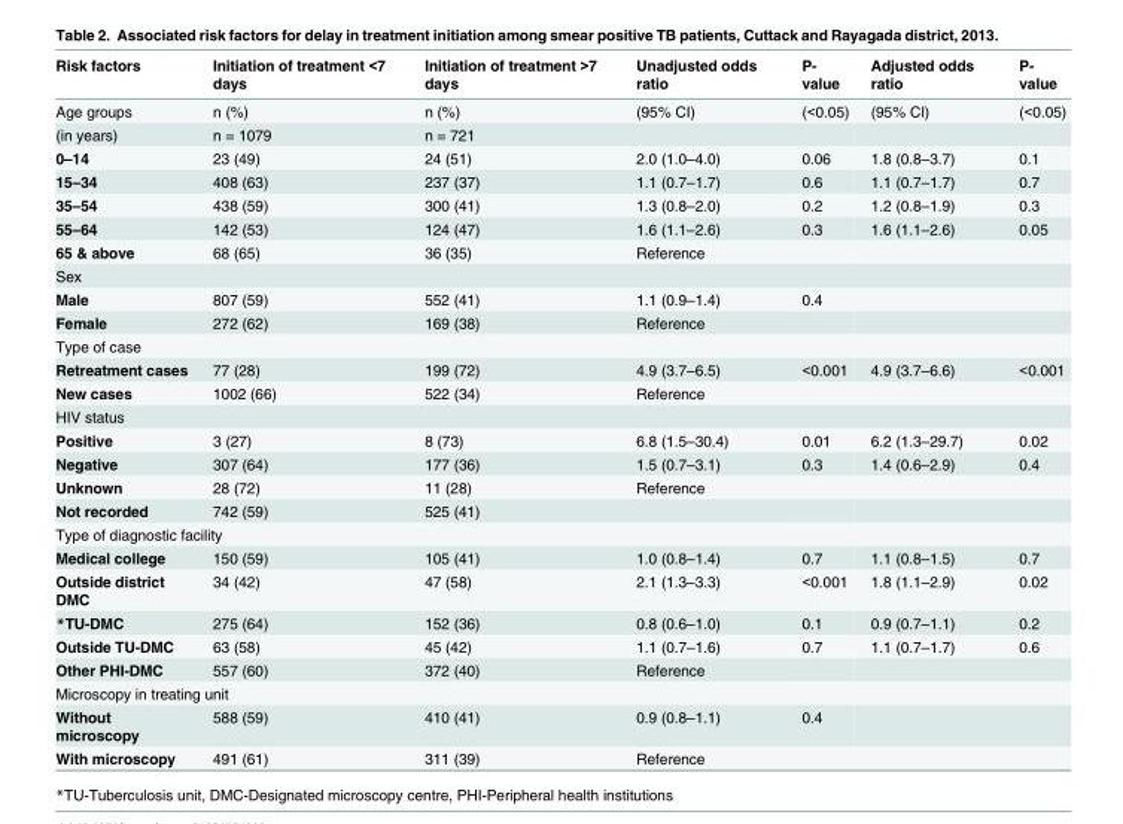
<table><thead><tr><td>Risk factors</td><td>Initiation of treatment &lt;7 days</td><td>Initiation of treatment &gt;7 days</td><td>Unadjusted odds ratio</td><td>P- value</td><td>Adjusted odds ratio</td><td>P- value</td></tr></thead><tbody><tr><td>Age groups</td><td>n (%)</td><td>n (%)</td><td>(95% CI)</td><td>(&lt;0.05)</td><td>(95% CI)</td><td>(&lt;0.05)</td></tr><tr><td>(in years)</td><td>n = 1079</td><td>n = 721</td><td></td><td></td><td></td><td></td></tr><tr><td>0–14</td><td>23 (49)</td><td>24 (51)</td><td>2.0 (1.0–4.0)</td><td>0.06</td><td>1.8 (0.8–3.7)</td><td>0.1</td></tr><tr><td>15–34</td><td>408 (63)</td><td>237 (37)</td><td>1.1 (0.7–1.7)</td><td>0.6</td><td>1.1 (0.7–1.7)</td><td>0.7</td></tr><tr><td>35–54</td><td>438 (59)</td><td>300 (41)</td><td>1.3 (0.8–2.0)</td><td>0.2</td><td>1.2 (0.8–1.9)</td><td>0.3</td></tr><tr><td>55–64</td><td>142 (53)</td><td>124 (47)</td><td>1.6 (1.1–2.6)</td><td>0.3</td><td>1.6 (1.1–2.6)</td><td>0.05</td></tr><tr><td>65 &amp; above</td><td>68 (65)</td><td>36 (35)</td><td>Reference</td><td></td><td></td><td></td></tr><tr><td colspan="7">Sex</td></tr><tr><td>Male</td><td>807 (59)</td><td>552 (41)</td><td>1.1 (0.9–1.4)</td><td>0.4</td><td></td><td></td></tr><tr><td>Female</td><td>272 (62)</td><td>169 (38)</td><td>Reference</td><td></td><td></td><td></td></tr><tr><td colspan="7">Type of case</td></tr><tr><td>Retreatment cases</td><td>77 (28)</td><td>199 (72)</td><td>4.9 (3.7–6.5)</td><td>&lt;0.001</td><td>4.9 (3.7–6.6)</td><td>&lt;0.001</td></tr><tr><td>New cases</td><td>1002 (66)</td><td>522 (34)</td><td>Reference</td><td></td><td></td><td></td></tr><tr><td colspan="7">HIV status</td></tr><tr><td>Positive</td><td>3 (27)</td><td>8 (73)</td><td>6.8 (1.5–30.4)</td><td>0.01</td><td>6.2 (1.3–29.7)</td><td>0.02</td></tr><tr><td>Negative</td><td>307 (64)</td><td>177 (36)</td><td>1.5 (0.7–3.1)</td><td>0.3</td><td>1.4 (0.6–2.9)</td><td>0.4</td></tr><tr><td>Unknown</td><td>28 (72)</td><td>11 (28)</td><td>Reference</td><td></td><td></td><td></td></tr><tr><td>Not recorded</td><td>742 (59)</td><td>525 (41)</td><td></td><td></td><td></td><td></td></tr><tr><td colspan="7">Type of diagnostic facility</td></tr><tr><td>Medical college</td><td>150 (59)</td><td>105 (41)</td><td>1.0 (0.8–1.4)</td><td>0.7</td><td>1.1 (0.8–1.5)</td><td>0.7</td></tr><tr><td>Outside district DMC</td><td>34 (42)</td><td>47 (58)</td><td>2.1 (1.3–3.3)</td><td>&lt;0.001</td><td>1.8 (1.1–2.9)</td><td>0.02</td></tr><tr><td>*TU-DMC</td><td>275 (64)</td><td>152 (36)</td><td>0.8 (0.6–1.0)</td><td>0.1</td><td>0.9 (0.7–1.1)</td><td>0.2</td></tr><tr><td>Outside TU-DMC</td><td>63 (58)</td><td>45 (42)</td><td>1.1 (0.7–1.6)</td><td>0.7</td><td>1.1 (0.7–1.7)</td><td>0.6</td></tr><tr><td>Other PHI-DMC</td><td>557 (60)</td><td>372 (40)</td><td>Reference</td><td></td><td></td><td></td></tr><tr><td colspan="7">Microscopy in treating unit</td></tr><tr><td>Without microscopy</td><td>588 (59)</td><td>410 (41)</td><td>0.9 (0.8–1.1)</td><td>0.4</td><td></td><td></td></tr><tr><td>With microscopy</td><td>491 (61)</td><td>311 (39)</td><td>Reference</td><td></td><td></td><td></td></tr></tbody></table>